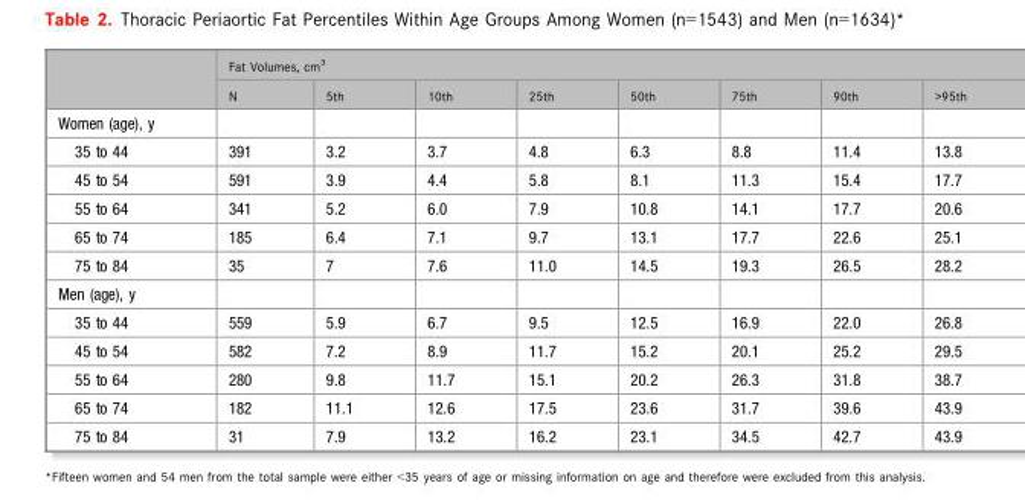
<table><thead><tr><td rowspan="2"></td><td colspan="8">Fat Volumes, cm<sup>3</sup></td></tr><tr><td>N</td><td>5th</td><td>10th</td><td>25th</td><td>50th</td><td>75th</td><td>90th</td><td>&gt;95th</td></tr></thead><tbody><tr><td colspan="9">Women (age), y</td></tr><tr><td>35 to 44</td><td>391</td><td>3.2</td><td>3.7</td><td>4.8</td><td>6.3</td><td>8.8</td><td>11.4</td><td>13.8</td></tr><tr><td>45 to 54</td><td>591</td><td>3.9</td><td>4.4</td><td>5.8</td><td>8.1</td><td>11.3</td><td>15.4</td><td>17.7</td></tr><tr><td>55 to 64</td><td>341</td><td>5.2</td><td>6.0</td><td>7.9</td><td>10.8</td><td>14.1</td><td>17.7</td><td>20.6</td></tr><tr><td>65 to 74</td><td>185</td><td>6.4</td><td>7.1</td><td>9.7</td><td>13.1</td><td>17.7</td><td>22.6</td><td>25.1</td></tr><tr><td>75 to 84</td><td>35</td><td>7</td><td>7.6</td><td>11.0</td><td>14.5</td><td>19.3</td><td>26.5</td><td>28.2</td></tr><tr><td colspan="9">Men (age), y</td></tr><tr><td>35 to 44</td><td>559</td><td>5.9</td><td>6.7</td><td>9.5</td><td>12.5</td><td>16.9</td><td>22.0</td><td>26.8</td></tr><tr><td>45 to 54</td><td>582</td><td>7.2</td><td>8.9</td><td>11.7</td><td>15.2</td><td>20.1</td><td>25.2</td><td>29.5</td></tr><tr><td>55 to 64</td><td>280</td><td>9.8</td><td>11.7</td><td>15.1</td><td>20.2</td><td>26.3</td><td>31.8</td><td>38.7</td></tr><tr><td>65 to 74</td><td>182</td><td>11.1</td><td>12.6</td><td>17.5</td><td>23.6</td><td>31.7</td><td>39.6</td><td>43.9</td></tr><tr><td>75 to 84</td><td>31</td><td>7.9</td><td>13.2</td><td>16.2</td><td>23.1</td><td>34.5</td><td>42.7</td><td>43.9</td></tr></tbody></table>